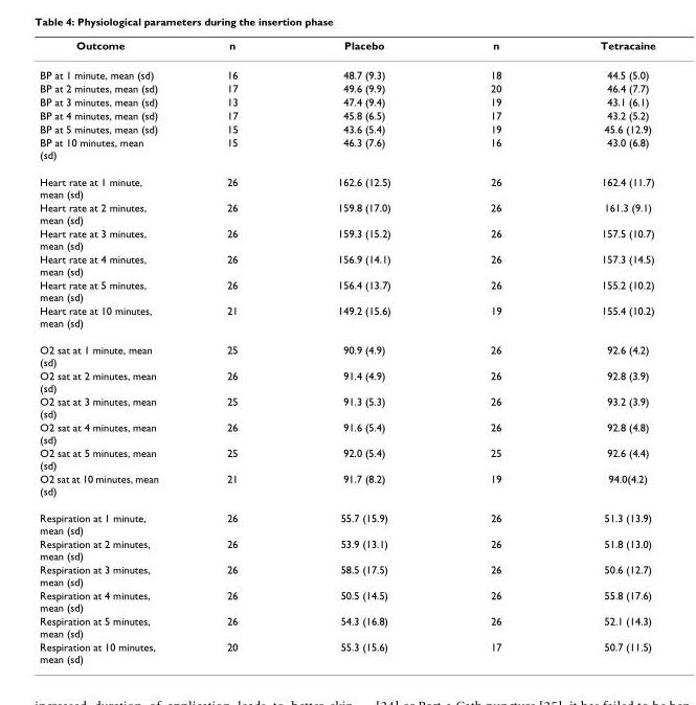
<table><thead><tr><td>Outcome</td><td>n</td><td>Placebo</td><td>n</td><td>Tetracaine</td></tr></thead><tbody><tr><td>BP at 1 minute, mean (sd)</td><td>16</td><td>48.7 (9.3)</td><td>18</td><td>44.5 (5.0)</td></tr><tr><td>BP at 2 minutes, mean (sd)</td><td>17</td><td>49.6 (9.9)</td><td>20</td><td>46.4 (7.7)</td></tr><tr><td>BP at 3 minutes, mean (sd)</td><td>13</td><td>47.4 (9.4)</td><td>19</td><td>43.1 (6.1)</td></tr><tr><td>BP at 4 minutes, mean (sd)</td><td>17</td><td>45.8 (6.5)</td><td>17</td><td>43.2 (5.2)</td></tr><tr><td>BP at 5 minutes, mean (sd)</td><td>15</td><td>43.6 (5.4)</td><td>19</td><td>45.6 (12.9)</td></tr><tr><td>BP at 10 minutes, mean (sd)</td><td>15</td><td>46.3 (7.6)</td><td>16</td><td>43.0 (6.8)</td></tr><tr><td>Heart rate at 1 minute, mean (sd)</td><td>26</td><td>162.6 (12.5)</td><td>26</td><td>162.4 (11.7)</td></tr><tr><td>Heart rate at 2 minutes, mean (sd)</td><td>26</td><td>159.8 (17.0)</td><td>26</td><td>161.3 (9.1)</td></tr><tr><td>Heart rate at 3 minutes, mean (sd)</td><td>26</td><td>159.3 (15.2)</td><td>26</td><td>157.5 (10.7)</td></tr><tr><td>Heart rate at 4 minutes, mean (sd)</td><td>26</td><td>156.9 (14.1)</td><td>26</td><td>157.3 (14.5)</td></tr><tr><td>Heart rate at 5 minutes, mean (sd)</td><td>26</td><td>156.4 (13.7)</td><td>26</td><td>155.2 (10.2)</td></tr><tr><td>Heart rate at 10 minutes, mean (sd)</td><td>21</td><td>149.2 (15.6)</td><td>19</td><td>155.4 (10.2)</td></tr><tr><td>O2 sat at 1 minute, mean (sd)</td><td>25</td><td>90.9 (4.9)</td><td>26</td><td>92.6 (4.2)</td></tr><tr><td>O2 sat at 2 minutes, mean (sd)</td><td>26</td><td>91.4 (4.9)</td><td>26</td><td>92.8 (3.9)</td></tr><tr><td>O2 sat at 3 minutes, mean (sd)</td><td>25</td><td>91.3 (5.3)</td><td>26</td><td>93.2 (3.9)</td></tr><tr><td>O2 sat at 4 minutes, mean (sd)</td><td>26</td><td>91.6 (5.4)</td><td>26</td><td>92.8 (4.8)</td></tr><tr><td>O2 sat at 5 minutes, mean (sd)</td><td>25</td><td>92.0 (5.4)</td><td>25</td><td>92.6 (4.4)</td></tr><tr><td>O2 sat at 10 minutes, mean (sd)</td><td>21</td><td>91.7 (8.2)</td><td>19</td><td>94.0(4.2)</td></tr><tr><td>Respiration at 1 minute, mean (sd)</td><td>26</td><td>55.7 (15.9)</td><td>26</td><td>51.3 (13.9)</td></tr><tr><td>Respiration at 2 minutes, mean (sd)</td><td>26</td><td>53.9 (13.1)</td><td>26</td><td>51.8 (13.0)</td></tr><tr><td>Respiration at 3 minutes, mean (sd)</td><td>26</td><td>58.5 (17.5)</td><td>26</td><td>50.6 (12.7)</td></tr><tr><td>Respiration at 4 minutes, mean (sd)</td><td>26</td><td>50.5 (14.5)</td><td>26</td><td>55.8 (17.6)</td></tr><tr><td>Respiration at 5 minutes, mean (sd)</td><td>26</td><td>54.3 (16.8)</td><td>26</td><td>52.1 (14.3)</td></tr><tr><td>Respiration at 10 minutes, mean (sd)</td><td>20</td><td>55.3 (15.6)</td><td>17</td><td>50.7 (11.5)</td></tr></tbody></table>